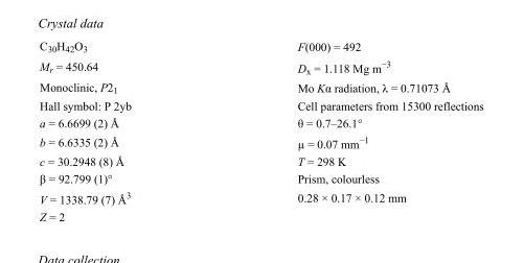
<table><tbody><tr><td>C<sub>30</sub>H<sub>42</sub>O<sub>3</sub></td><td>F(000) = 492</td></tr><tr><td>M<sub>r</sub> = 450.64</td><td>D<sub>x</sub> = 1.118 Mg m<sup>−3</sup></td></tr><tr><td>Monoclinic, P2<sub>1</sub></td><td>Mo Kα radiation, λ = 0.71073 Å</td></tr><tr><td>Hall symbol: P 2yb</td><td>Cell parameters from 15300 reflections</td></tr><tr><td>a = 6.6699 (2) Å</td><td>θ = 0.7–26.1°</td></tr><tr><td>b = 6.6335 (2) Å</td><td>µ = 0.07 mm<sup>−1</sup></td></tr><tr><td>c = 30.2948 (8) Å</td><td>T = 298 K</td></tr><tr><td>β = 92.799 (1)°</td><td>Prism, colourless</td></tr><tr><td>V = 1338.79 (7) Å<sup>3</sup></td><td>0.28 × 0.17 × 0.12 mm</td></tr><tr><td>Z = 2</td><td></td></tr></tbody></table>